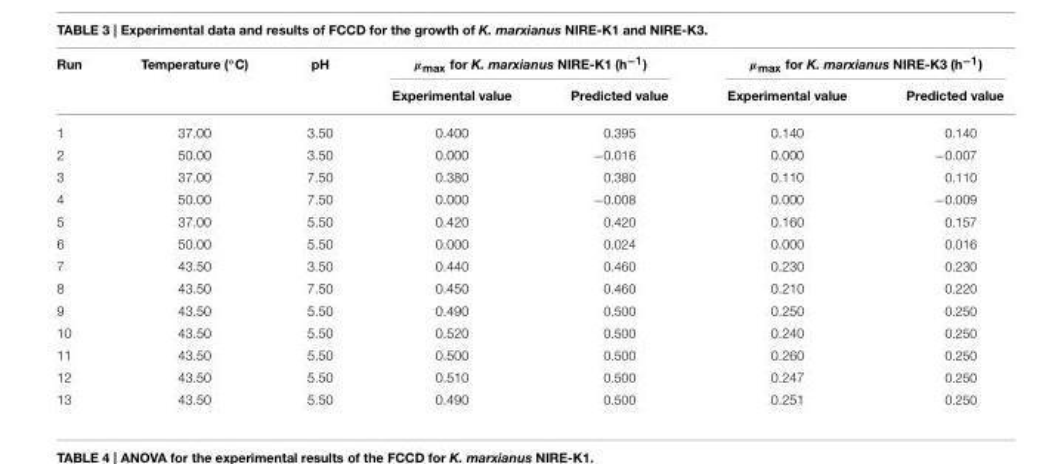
<table><thead><tr><td rowspan="2">Run</td><td rowspan="2">Temperature (◦C)</td><td rowspan="2">pH</td><td colspan="2">µ<sub>max</sub> for K. marxianus NIRE-K1 (h<sup>−1</sup>)</td><td colspan="2">µ<sub>max</sub> for K. marxianus NIRE-K3 (h<sup>−1</sup>)</td></tr><tr><td>Experimental value</td><td>Predicted value</td><td>Experimental value</td><td>Predicted value</td></tr></thead><tbody><tr><td>1</td><td>37.00</td><td>3.50</td><td>0.400</td><td>0.395</td><td>0.140</td><td>0.140</td></tr><tr><td>2</td><td>50.00</td><td>3.50</td><td>0.000</td><td>−0.016</td><td>0.000</td><td>−0.007</td></tr><tr><td>3</td><td>37.00</td><td>7.50</td><td>0.380</td><td>0.380</td><td>0.110</td><td>0.110</td></tr><tr><td>4</td><td>50.00</td><td>7.50</td><td>0.000</td><td>−0.008</td><td>0.000</td><td>−0.009</td></tr><tr><td>5</td><td>37.00</td><td>5.50</td><td>0.420</td><td>0.420</td><td>0.160</td><td>0.157</td></tr><tr><td>6</td><td>50.00</td><td>5.50</td><td>0.000</td><td>0.024</td><td>0.000</td><td>0.016</td></tr><tr><td>7</td><td>43.50</td><td>3.50</td><td>0.440</td><td>0.460</td><td>0.230</td><td>0.230</td></tr><tr><td>8</td><td>43.50</td><td>7.50</td><td>0.450</td><td>0.460</td><td>0.210</td><td>0.220</td></tr><tr><td>9</td><td>43.50</td><td>5.50</td><td>0.490</td><td>0.500</td><td>0.250</td><td>0.250</td></tr><tr><td>10</td><td>43.50</td><td>5.50</td><td>0.520</td><td>0.500</td><td>0.240</td><td>0.250</td></tr><tr><td>11</td><td>43.50</td><td>5.50</td><td>0.500</td><td>0.500</td><td>0.260</td><td>0.250</td></tr><tr><td>12</td><td>43.50</td><td>5.50</td><td>0.510</td><td>0.500</td><td>0.247</td><td>0.250</td></tr><tr><td>13</td><td>43.50</td><td>5.50</td><td>0.490</td><td>0.500</td><td>0.251</td><td>0.250</td></tr></tbody></table>